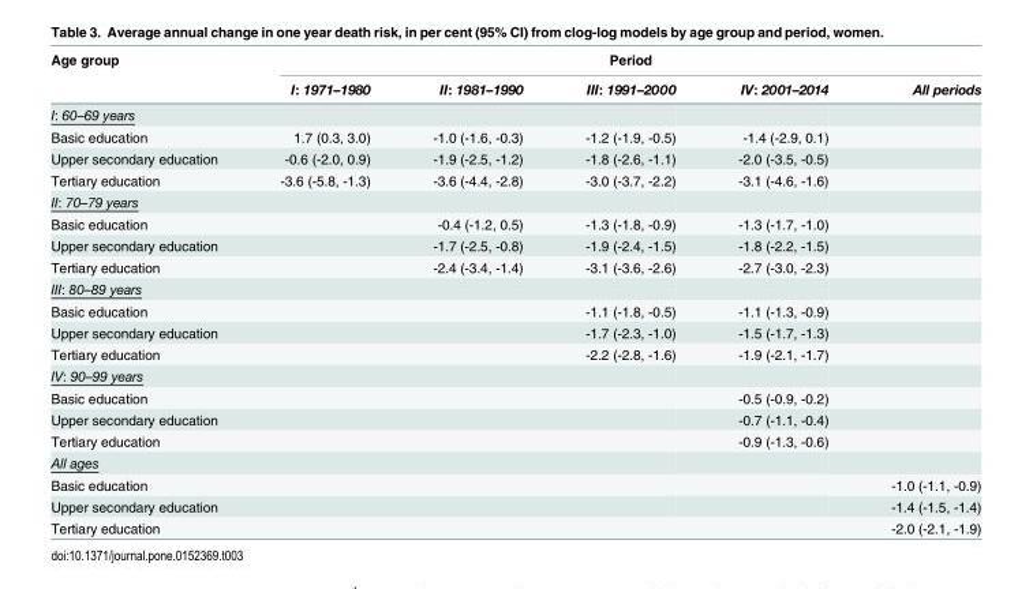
<table><thead><tr><td rowspan="2">Age group</td><td colspan="5">Period</td></tr><tr><td>I: 1971–1980</td><td>II: 1981–1990</td><td>III: 1991–2000</td><td>IV: 2001–2014</td><td>All periods</td></tr></thead><tbody><tr><td colspan="6">I: 60–69 years</td></tr><tr><td>Basic education</td><td>1.7 (0.3, 3.0)</td><td>-1.0 (-1.6, -0.3)</td><td>-1.2 (-1.9, -0.5)</td><td>-1.4 (-2.9, 0.1)</td><td></td></tr><tr><td>Upper secondary education</td><td>-0.6 (-2.0, 0.9)</td><td>-1.9 (-2.5, -1.2)</td><td>-1.8 (-2.6, -1.1)</td><td>-2.0 (-3.5, -0.5)</td><td></td></tr><tr><td>Tertiary education</td><td>-3.6 (-5.8, -1.3)</td><td>-3.6 (-4.4, -2.8)</td><td>-3.0 (-3.7, -2.2)</td><td>-3.1 (-4.6, -1.6)</td><td></td></tr><tr><td colspan="6">II: 70–79 years</td></tr><tr><td>Basic education</td><td></td><td>-0.4 (-1.2, 0.5)</td><td>-1.3 (-1.8, -0.9)</td><td>-1.3 (-1.7, -1.0)</td><td></td></tr><tr><td>Upper secondary education</td><td></td><td>-1.7 (-2.5, -0.8)</td><td>-1.9 (-2.4, -1.5)</td><td>-1.8 (-2.2, -1.5)</td><td></td></tr><tr><td>Tertiary education</td><td></td><td>-2.4 (-3.4, -1.4)</td><td>-3.1 (-3.6, -2.6)</td><td>-2.7 (-3.0, -2.3)</td><td></td></tr><tr><td colspan="6">III: 80–89 years</td></tr><tr><td>Basic education</td><td></td><td></td><td>-1.1 (-1.8, -0.5)</td><td>-1.1 (-1.3, -0.9)</td><td></td></tr><tr><td>Upper secondary education</td><td></td><td></td><td>-1.7 (-2.3, -1.0)</td><td>-1.5 (-1.7, -1.3)</td><td></td></tr><tr><td>Tertiary education</td><td></td><td></td><td>-2.2 (-2.8, -1.6)</td><td>-1.9 (-2.1, -1.7)</td><td></td></tr><tr><td colspan="6">IV: 90–99 years</td></tr><tr><td>Basic education</td><td></td><td></td><td></td><td>-0.5 (-0.9, -0.2)</td><td></td></tr><tr><td>Upper secondary education</td><td></td><td></td><td></td><td>-0.7 (-1.1, -0.4)</td><td></td></tr><tr><td>Tertiary education</td><td></td><td></td><td></td><td>-0.9 (-1.3, -0.6)</td><td></td></tr><tr><td colspan="6">All ages</td></tr><tr><td>Basic education</td><td></td><td></td><td></td><td></td><td>-1.0 (-1.1, -0.9)</td></tr><tr><td>Upper secondary education</td><td></td><td></td><td></td><td></td><td>-1.4 (-1.5, -1.4)</td></tr><tr><td>Tertiary education</td><td></td><td></td><td></td><td></td><td>-2.0 (-2.1, -1.9)</td></tr></tbody></table>